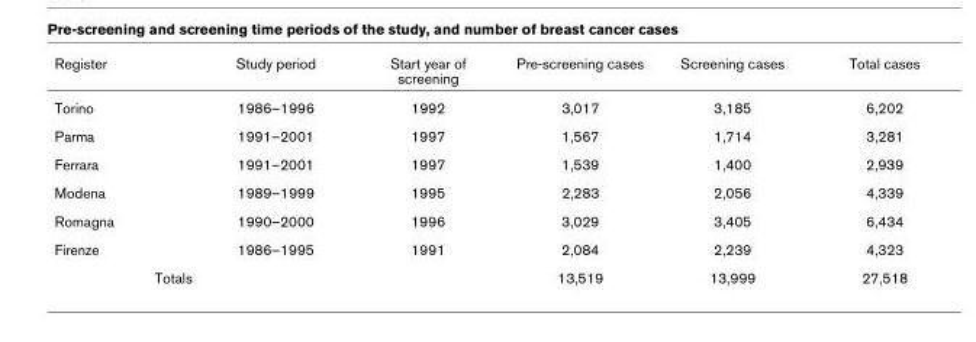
<table><thead><tr><td>Register</td><td>Study period</td><td>Start year of screening</td><td>Pre-screening cases</td><td>Screening cases</td><td>Total cases</td></tr></thead><tbody><tr><td>Torino</td><td>1986–1996</td><td>1992</td><td>3,017</td><td>3,185</td><td>6,202</td></tr><tr><td>Parma</td><td>1991–2001</td><td>1997</td><td>1,567</td><td>1,714</td><td>3,281</td></tr><tr><td>Ferrara</td><td>1991–2001</td><td>1997</td><td>1,539</td><td>1,400</td><td>2,939</td></tr><tr><td>Modena</td><td>1989–1999</td><td>1995</td><td>2,283</td><td>2,056</td><td>4,339</td></tr><tr><td>Romagna</td><td>1990–2000</td><td>1996</td><td>3,029</td><td>3,405</td><td>6,434</td></tr><tr><td>Firenze</td><td>1986–1995</td><td>1991</td><td>2,084</td><td>2,239</td><td>4,323</td></tr><tr><td>Totals</td><td></td><td></td><td>13,519</td><td>13,999</td><td>27,518</td></tr></tbody></table>